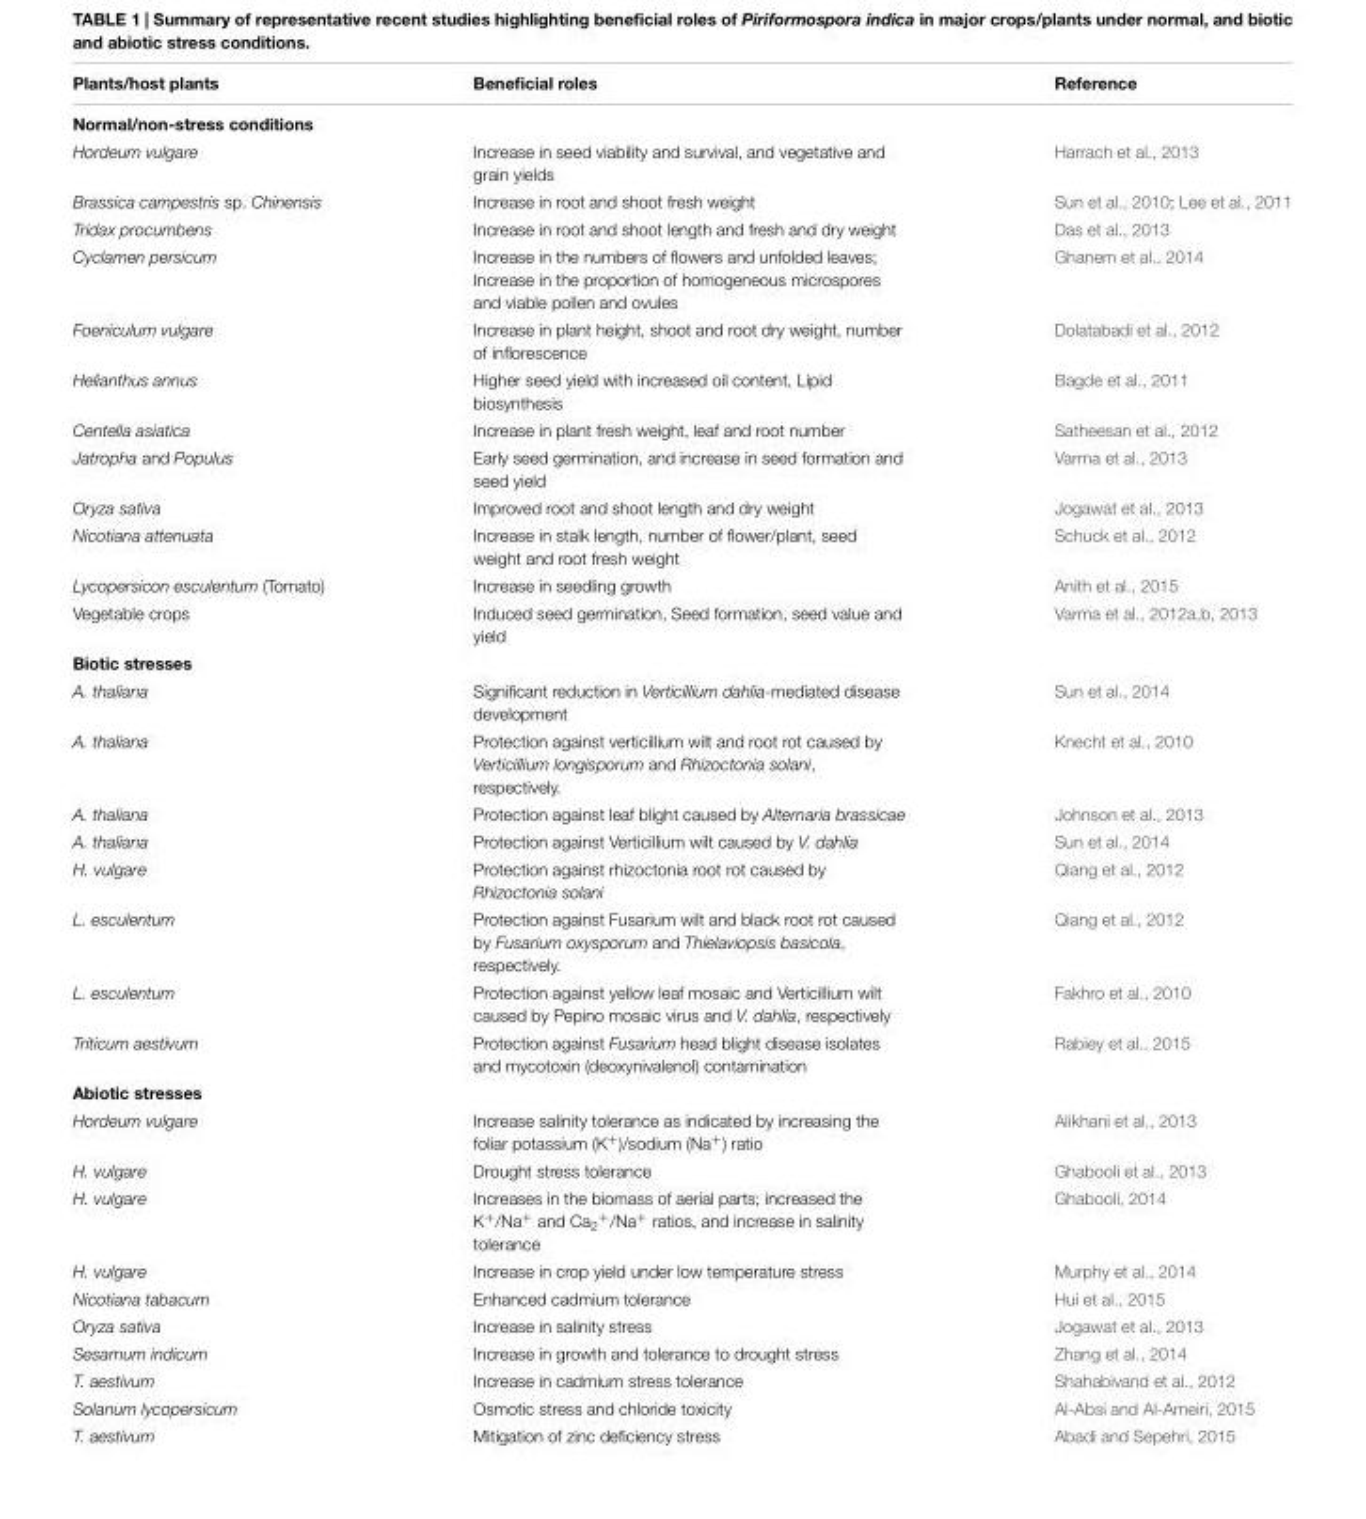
<table><thead><tr><td>Plants/host plants</td><td>Beneficial roles</td><td>Reference</td></tr></thead><tbody><tr><td colspan="3">Normal/non-stress conditions</td></tr><tr><td>Hordeum vulgare</td><td>Increase in seed viability and survival, and vegetative and grain yields</td><td>Harrach et al., 2013</td></tr><tr><td>Brassica campestris sp. Chinensis</td><td>Increase in root and shoot fresh weight</td><td>Sun et al., 2010; Lee et al., 2011</td></tr><tr><td>Tridax procumbens</td><td>Increase in root and shoot length and fresh and dry weight</td><td>Das et al., 2013</td></tr><tr><td>Cyclamen persicum</td><td>Increase in the numbers of flowers and unfolded leaves; Increase in the proportion of homogeneous microspores and viable pollen and ovules</td><td>Ghanem et al., 2014</td></tr><tr><td>Foeniculum vulgare</td><td>Increase in plant height, shoot and root dry weight, number of inflorescence</td><td>Dolatabadi et al., 2012</td></tr><tr><td>Helianthus annus</td><td>Higher seed yield with increased oil content, Lipid biosynthesis</td><td>Bagde et al., 2011</td></tr><tr><td>Centella asiatica</td><td>Increase in plant fresh weight, leaf and root number</td><td>Satheesan et al., 2012</td></tr><tr><td>Jatropha and Populus</td><td>Early seed germination, and increase in seed formation and seed yield</td><td>Varma et al., 2013</td></tr><tr><td>Oryza sativa</td><td>Improved root and shoot length and dry weight</td><td>Jogawat et al., 2013</td></tr><tr><td>Nicotiana attenuata</td><td>Increase in stalk length, number of flower/plant, seed weight and root fresh weight</td><td>Schuck et al., 2012</td></tr><tr><td>Lycopersicon esculentum (Tomato)</td><td>Increase in seedling growth</td><td>Anith et al., 2015</td></tr><tr><td>Vegetable crops</td><td>Induced seed germination, Seed formation, seed value and yield</td><td>Varma et al., 2012a,b, 2013</td></tr><tr><td colspan="3">Biotic stresses</td></tr><tr><td>A. thaliana</td><td>Significant reduction in Verticillium dahlia-mediated disease development</td><td>Sun et al., 2014</td></tr><tr><td>A. thaliana</td><td>Protection against verticillium wilt and root rot caused by Verticillium longisporum and Rhizoctonia solani, respectively.</td><td>Knecht et al., 2010</td></tr><tr><td>A. thaliana</td><td>Protection against leaf blight caused by Alternaria brassicae</td><td>Johnson et al., 2013</td></tr><tr><td>A. thaliana</td><td>Protection against Verticillium wilt caused by V. dahlia</td><td>Sun et al., 2014</td></tr><tr><td>H. vulgare</td><td>Protection against rhizoctonia root rot caused by Rhizoctonia solani</td><td>Qiang et al., 2012</td></tr><tr><td>L. esculentum</td><td>Protection against Fusarium wilt and black root rot caused by Fusarium oxysporum and Thielaviopsis basicola, respectively.</td><td>Qiang et al., 2012</td></tr><tr><td>L. esculentum</td><td>Protection against yellow leaf mosaic and Verticillium wilt caused by Pepino mosaic virus and V. dahlia, respectively</td><td>Fakhro et al., 2010</td></tr><tr><td>Triticum aestivum</td><td>Protection against Fusarium head blight disease isolates and mycotoxin (deoxynivalenol) contamination</td><td>Rabiey et al., 2015</td></tr><tr><td colspan="3">Abiotic stresses</td></tr><tr><td>Hordeum vulgare</td><td>Increase salinity tolerance as indicated by increasing the foliar potassium (K<sup>+</sup>)/sodium (Na<sup>+</sup>) ratio</td><td>Alikhani et al., 2013</td></tr><tr><td>H. vulgare</td><td>Drought stress tolerance</td><td>Ghabooli et al., 2013</td></tr><tr><td>H. vulgare</td><td>Increases in the biomass of aerial parts; increased the K<sup>+</sup>/Na<sup>+</sup> and Ca<sub>2</sub><sup>+</sup>/Na<sup>+</sup> ratios, and increase in salinity tolerance</td><td>Ghabooli, 2014</td></tr><tr><td>H. vulgare</td><td>Increase in crop yield under low temperature stress</td><td>Murphy et al., 2014</td></tr><tr><td>Nicotiana tabacum</td><td>Enhanced cadmium tolerance</td><td>Hui et al., 2015</td></tr><tr><td>Oryza sativa</td><td>Increase in salinity stress</td><td>Jogawat et al., 2013</td></tr><tr><td>Sesamum indicum</td><td>Increase in growth and tolerance to drought stress</td><td>Zhang et al., 2014</td></tr><tr><td>T. aestivum</td><td>Increase in cadmium stress tolerance</td><td>Shahabivand et al., 2012</td></tr><tr><td>Solanum lycopersicum</td><td>Osmotic stress and chloride toxicity</td><td>Al-Absi and Al-Ameiri, 2015</td></tr><tr><td>T. aestivum</td><td>Mitigation of zinc deficiency stress</td><td>Abadi and Sepehri, 2015</td></tr></tbody></table>